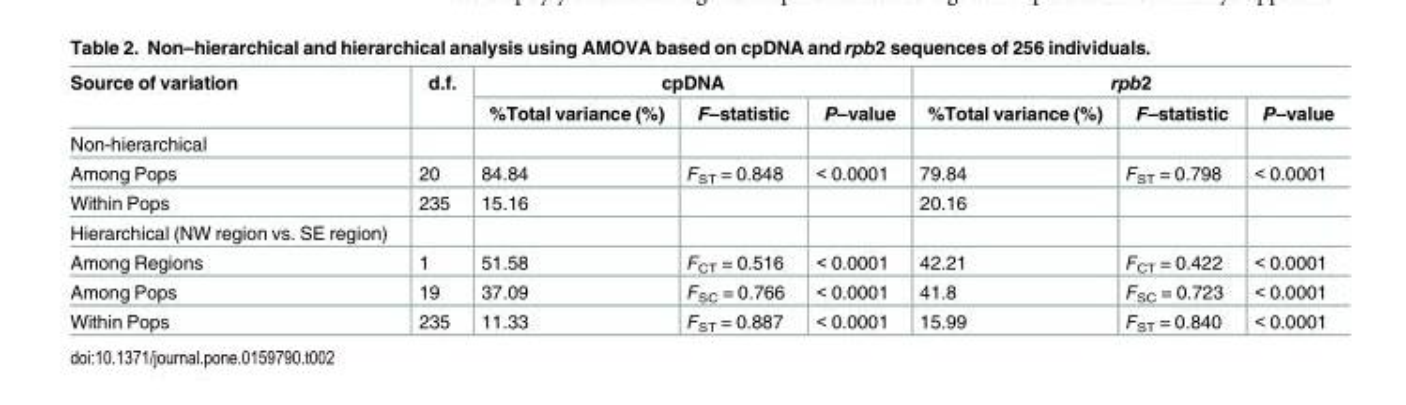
<table><thead><tr><td rowspan="2">Source of variation</td><td rowspan="2">d.f.</td><td colspan="3">cpDNA</td><td colspan="3">rpb2</td></tr><tr><td>%Total variance (%)</td><td>F–statistic</td><td>P–value</td><td>%Total variance (%)</td><td>F–statistic</td><td>P–value</td></tr></thead><tbody><tr><td colspan="8">Non-hierarchical</td></tr><tr><td>Among Pops</td><td>20</td><td>84.84</td><td>F<sub>ST</sub> = 0.848</td><td>&lt; 0.0001</td><td>79.84</td><td>F<sub>ST</sub> = 0.798</td><td>&lt; 0.0001</td></tr><tr><td>Within Pops</td><td>235</td><td>15.16</td><td></td><td></td><td>20.16</td><td></td><td></td></tr><tr><td colspan="8">Hierarchical (NW region vs. SE region)</td></tr><tr><td>Among Regions</td><td>1</td><td>51.58</td><td>F<sub>CT</sub> = 0.516</td><td>&lt; 0.0001</td><td>42.21</td><td>F<sub>CT</sub> = 0.422</td><td>&lt; 0.0001</td></tr><tr><td>Among Pops</td><td>19</td><td>37.09</td><td>F<sub>SC</sub> = 0.766</td><td>&lt; 0.0001</td><td>41.8</td><td>F<sub>SC</sub> = 0.723</td><td>&lt; 0.0001</td></tr><tr><td>Within Pops</td><td>235</td><td>11.33</td><td>F<sub>ST</sub> = 0.887</td><td>&lt; 0.0001</td><td>15.99</td><td>F<sub>ST</sub> = 0.840</td><td>&lt; 0.0001</td></tr></tbody></table>